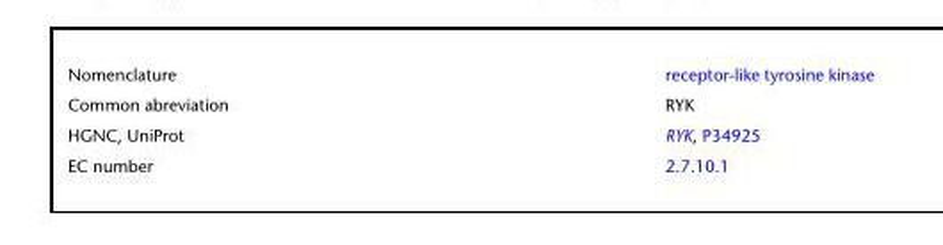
<table><tbody><tr><td>Nomenclature</td><td>receptor-like tyrosine kinase</td></tr><tr><td>Common abreviation</td><td>RYK</td></tr><tr><td>HGNC, UniProt</td><td>RYK, P34925</td></tr><tr><td>EC number</td><td>2.7.10.1</td></tr></tbody></table>